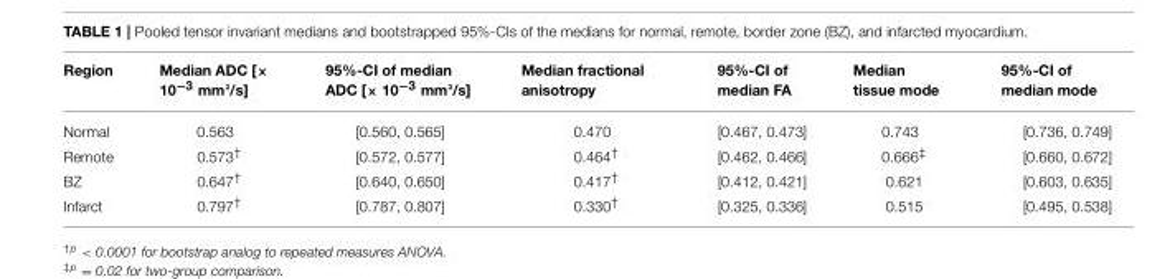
<table><thead><tr><td>Region</td><td>Median ADC [× 10<sup>−3</sup> mm²/s]</td><td>95%-CI of median ADC [× 10<sup>−3</sup> mm²/s]</td><td>Median fractional anisotropy</td><td>95%-CI of median FA</td><td>Median tissue mode</td><td>95%-CI of median mode</td></tr></thead><tbody><tr><td>Normal</td><td>0.563</td><td>[0.560, 0.565]</td><td>0.470</td><td>[0.467, 0.473]</td><td>0.743</td><td>[0.736, 0.749]</td></tr><tr><td>Remote</td><td>0.573<sup>†</sup></td><td>[0.572, 0.577]</td><td>0.464<sup>†</sup></td><td>[0.462, 0.466]</td><td>0.666<sup>‡</sup></td><td>[0.660, 0.672]</td></tr><tr><td>BZ</td><td>0.647<sup>†</sup></td><td>[0.640, 0.650]</td><td>0.417<sup>†</sup></td><td>[0.412, 0.421]</td><td>0.621</td><td>[0.603, 0.635]</td></tr><tr><td>Infarct</td><td>0.797<sup>†</sup></td><td>[0.787, 0.807]</td><td>0.330<sup>†</sup></td><td>[0.325, 0.336]</td><td>0.515</td><td>[0.495, 0.538]</td></tr></tbody></table>